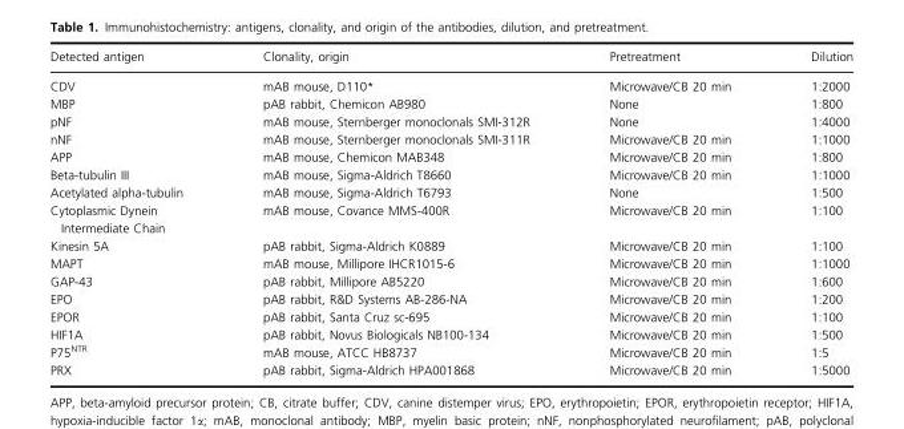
<table><thead><tr><td>Detected antigen</td><td>Clonality, origin</td><td>Pretreatment</td><td>Dilution</td></tr></thead><tbody><tr><td>CDV</td><td>mAB mouse, D110*</td><td>Microwave/CB 20 min</td><td>1:2000</td></tr><tr><td>MBP</td><td>pAB rabbit, Chemicon AB980</td><td>None</td><td>1:800</td></tr><tr><td>pNF</td><td>mAB mouse, Sternberger monoclonals SMI-312R</td><td>None</td><td>1:4000</td></tr><tr><td>nNF</td><td>mAB mouse, Sternberger monoclonals SMI-311R</td><td>Microwave/CB 20 min</td><td>1:1000</td></tr><tr><td>APP</td><td>mAB mouse, Chemicon MAB348</td><td>Microwave/CB 20 min</td><td>1:800</td></tr><tr><td>Beta-tubulin III</td><td>mAB mouse, Sigma-Aldrich T8660</td><td>Microwave/CB 20 min</td><td>1:1000</td></tr><tr><td>Acetylated alpha-tubulin</td><td>mAB mouse, Sigma-Aldrich T6793</td><td>None</td><td>1:500</td></tr><tr><td>Cytoplasmic Dynein Intermediate Chain</td><td>mAB mouse, Covance MMS-400R</td><td>Microwave/CB 20 min</td><td>1:100</td></tr><tr><td>Kinesin 5A</td><td>pAB rabbit, Sigma-Aldrich K0889</td><td>Microwave/CB 20 min</td><td>1:100</td></tr><tr><td>MAPT</td><td>mAB mouse, Millipore IHCR1015-6</td><td>Microwave/CB 20 min</td><td>1:1000</td></tr><tr><td>GAP-43</td><td>pAB rabbit, Millipore AB5220</td><td>Microwave/CB 20 min</td><td>1:600</td></tr><tr><td>EPO</td><td>pAB rabbit, R&amp;D Systems AB-286-NA</td><td>Microwave/CB 20 min</td><td>1:200</td></tr><tr><td>EPOR</td><td>pAB rabbit, Santa Cruz sc-695</td><td>Microwave/CB 20 min</td><td>1:100</td></tr><tr><td>HIF1A</td><td>pAB rabbit, Novus Biologicals NB100-134</td><td>Microwave/CB 20 min</td><td>1:500</td></tr><tr><td>P75<sup>NTR</sup></td><td>mAB mouse, ATCC HB8737</td><td>Microwave/CB 20 min</td><td>1:5</td></tr><tr><td>PRX</td><td>pAB rabbit, Sigma-Aldrich HPA001868</td><td>Microwave/CB 20 min</td><td>1:5000</td></tr></tbody></table>